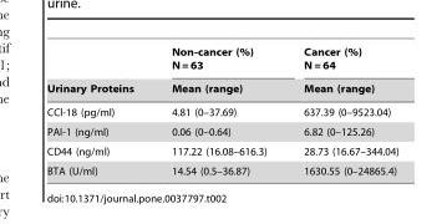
<table><thead><tr><td rowspan="2">Urinary Proteins</td><td rowspan="2">Non-cancer (%) N = 63 Mean (range)</td><td rowspan="2">Cancer (%) N = 64 Mean (range)</td></tr><tr></tr></thead><tbody><tr><td>CCl-18 (pg/ml)</td><td>4.81 (0–37.69)</td><td>637.39 (0–9523.04)</td></tr><tr><td>PAI-1 (ng/ml)</td><td>0.06 (0–0.64)</td><td>6.82 (0–125.26)</td></tr><tr><td>CD44 (ng/ml)</td><td>117.22 (16.08–616.3)</td><td>28.73 (16.67–344.04)</td></tr><tr><td>BTA (U/ml)</td><td>14.54 (0.5–36.87)</td><td>1630.55 (0–24865.4)</td></tr></tbody></table>